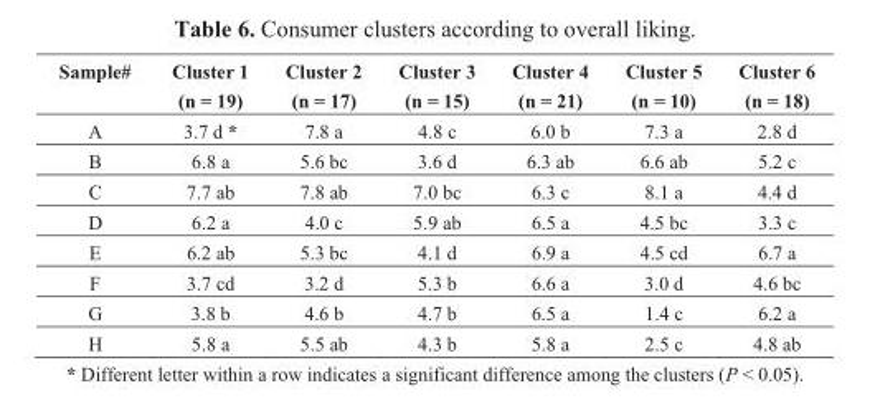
<table><thead><tr><td>Sample#</td><td>Cluster 1 (n = 19)</td><td>Cluster 2 (n = 17)</td><td>Cluster 3 (n = 15)</td><td>Cluster 4 (n = 21)</td><td>Cluster 5 (n = 10)</td><td>Cluster 6 (n = 18)</td></tr></thead><tbody><tr><td>A</td><td>3.7 d *</td><td>7.8 a</td><td>4.8 c</td><td>6.0 b</td><td>7.3 a</td><td>2.8 d</td></tr><tr><td>B</td><td>6.8 a</td><td>5.6 bc</td><td>3.6 d</td><td>6.3 ab</td><td>6.6 ab</td><td>5.2 c</td></tr><tr><td>C</td><td>7.7 ab</td><td>7.8 ab</td><td>7.0 bc</td><td>6.3 c</td><td>8.1 a</td><td>4.4 d</td></tr><tr><td>D</td><td>6.2 a</td><td>4.0 c</td><td>5.9 ab</td><td>6.5 a</td><td>4.5 bc</td><td>3.3 c</td></tr><tr><td>E</td><td>6.2 ab</td><td>5.3 bc</td><td>4.1 d</td><td>6.9 a</td><td>4.5 cd</td><td>6.7 a</td></tr><tr><td>F</td><td>3.7 cd</td><td>3.2 d</td><td>5.3 b</td><td>6.6 a</td><td>3.0 d</td><td>4.6 bc</td></tr><tr><td>G</td><td>3.8 b</td><td>4.6 b</td><td>4.7 b</td><td>6.5 a</td><td>1.4 c</td><td>6.2 a</td></tr><tr><td>H</td><td>5.8 a</td><td>5.5 ab</td><td>4.3 b</td><td>5.8 a</td><td>2.5 c</td><td>4.8 ab</td></tr></tbody></table>